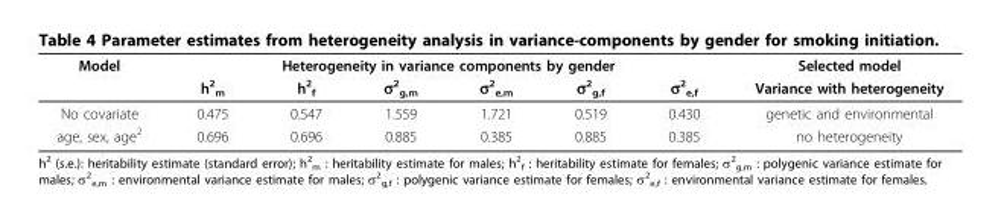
<table><thead><tr><td rowspan="2">Model</td><td colspan="6">Heterogeneity in variance components by gender</td><td rowspan="2">Selected model Variance with heterogeneity</td></tr><tr><td>h<sup>2</sup> <sub>m</sub></td><td>h<sup>2</sup> <sub>f</sub></td><td>σ<sup>2</sup> <sub>g,m</sub></td><td>σ<sup>2</sup> <sub>e,m</sub></td><td>σ<sup>2</sup> <sub>g,f</sub></td><td>σ<sup>2</sup> <sub>e,f</sub></td></tr></thead><tbody><tr><td>No covariate</td><td>0.475</td><td>0.547</td><td>1.559</td><td>1.721</td><td>0.519</td><td>0.430</td><td>genetic and environmental</td></tr><tr><td>age, sex, age<sup>2</sup></td><td>0.696</td><td>0.696</td><td>0.885</td><td>0.385</td><td>0.885</td><td>0.385</td><td>no heterogeneity</td></tr></tbody></table>